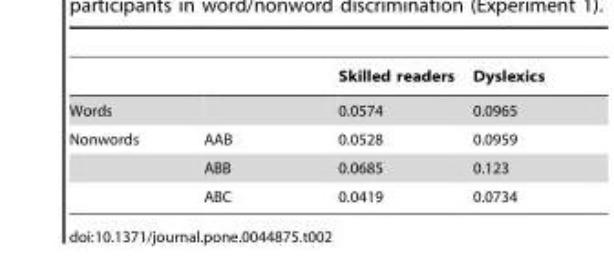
<table><thead><tr><td></td><td></td><td>Skilled readers</td><td>Dyslexics</td></tr></thead><tbody><tr><td>Words</td><td></td><td>0.0574</td><td>0.0965</td></tr><tr><td rowspan="3">Nonwords</td><td>AAB</td><td>0.0528</td><td>0.0959</td></tr><tr><td>ABB</td><td>0.0685</td><td>0.123</td></tr><tr><td>ABC</td><td>0.0419</td><td>0.0734</td></tr></tbody></table>